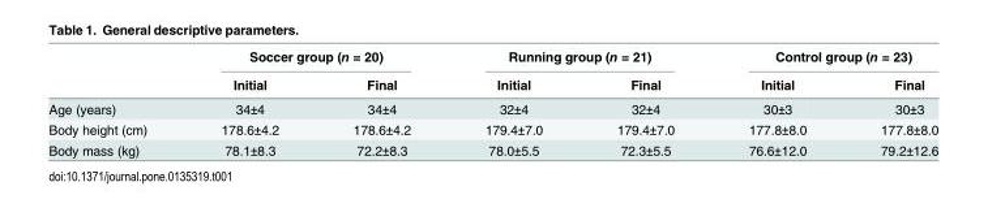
<table><thead><tr><td rowspan="2"></td><td colspan="2">Soccer group (n = 20)</td><td colspan="2">Running group (n = 21)</td><td colspan="2">Control group (n = 23)</td></tr><tr><td>Initial</td><td>Final</td><td>Initial</td><td>Final</td><td>Initial</td><td>Final</td></tr></thead><tbody><tr><td>Age (years)</td><td>34±4</td><td>34±4</td><td>32±4</td><td>32±4</td><td>30±3</td><td>30±3</td></tr><tr><td>Body height (cm)</td><td>178.6±4.2</td><td>178.6±4.2</td><td>179.4±7.0</td><td>179.4±7.0</td><td>177.8±8.0</td><td>177.8±8.0</td></tr><tr><td>Body mass (kg)</td><td>78.1±8.3</td><td>72.2±8.3</td><td>78.0±5.5</td><td>72.3±5.5</td><td>76.6±12.0</td><td>79.2±12.6</td></tr></tbody></table>